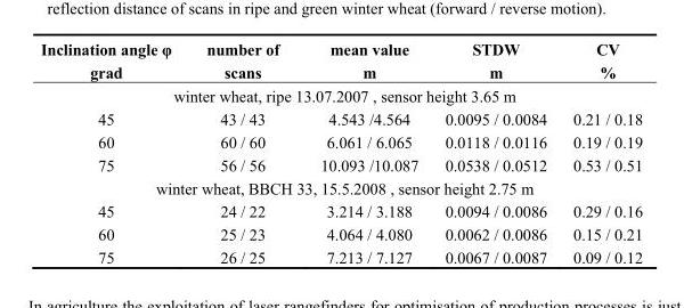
<table><thead><tr><td>Inclination angle φ grad</td><td>number of scans</td><td>mean value m</td><td>STDW m</td><td>CV %</td></tr></thead><tbody><tr><td colspan="5">winter wheat, ripe 13.07.2007 , sensor height 3.65 m</td></tr><tr><td>45</td><td>43 / 43</td><td>4.543 /4.564</td><td>0.0095 / 0.0084</td><td>0.21 / 0.18</td></tr><tr><td>60</td><td>60 / 60</td><td>6.061 / 6.065</td><td>0.0118 / 0.0116</td><td>0.19 / 0.19</td></tr><tr><td>75</td><td>56 / 56</td><td>10.093 /10.087</td><td>0.0538 / 0.0512</td><td>0.53 / 0.51</td></tr><tr><td colspan="5">winter wheat, BBCH 33, 15.5.2008 , sensor height 2.75 m</td></tr><tr><td>45</td><td>24 / 22</td><td>3.214 / 3.188</td><td>0.0094 / 0.0086</td><td>0.29 / 0.16</td></tr><tr><td>60</td><td>25 / 23</td><td>4.064 / 4.080</td><td>0.0062 / 0.0086</td><td>0.15 / 0.21</td></tr><tr><td>75</td><td>26 / 25</td><td>7.213 / 7.127</td><td>0.0067 / 0.0087</td><td>0.09 / 0.12</td></tr></tbody></table>